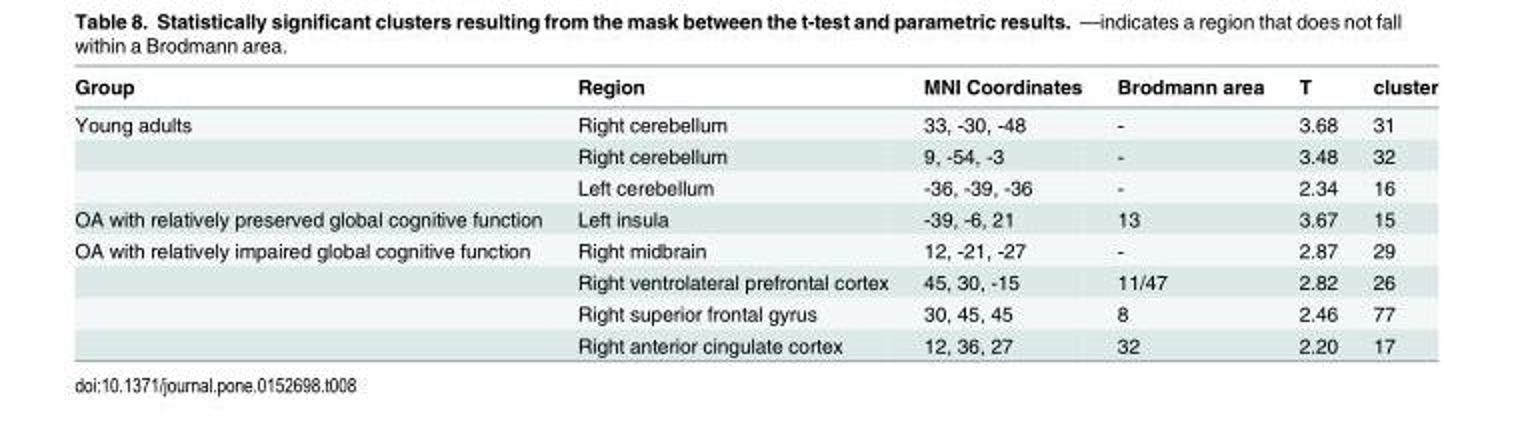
<table><thead><tr><td>Group</td><td>Region</td><td>MNI Coordinates</td><td>Brodmann area</td><td>T</td><td>cluster</td></tr></thead><tbody><tr><td rowspan="3">Young adults</td><td>Right cerebellum</td><td>33, -30, -48</td><td>-</td><td>3.68</td><td>31</td></tr><tr><td>Right cerebellum</td><td>9, -54, -3</td><td>-</td><td>3.48</td><td>32</td></tr><tr><td>Left cerebellum</td><td>-36, -39, -36</td><td>-</td><td>2.34</td><td>16</td></tr><tr><td>OA with relatively preserved global cognitive function</td><td>Left insula</td><td>-39, -6, 21</td><td>13</td><td>3.67</td><td>15</td></tr><tr><td rowspan="4">OA with relatively impaired global cognitive function</td><td>Right midbrain</td><td>12, -21, -27</td><td>-</td><td>2.87</td><td>29</td></tr><tr><td>Right ventrolateral prefrontal cortex</td><td>45, 30, -15</td><td>11/47</td><td>2.82</td><td>26</td></tr><tr><td>Right superior frontal gyrus</td><td>30, 45, 45</td><td>8</td><td>2.46</td><td>77</td></tr><tr><td>Right anterior cingulate cortex</td><td>12, 36, 27</td><td>32</td><td>2.20</td><td>17</td></tr></tbody></table>